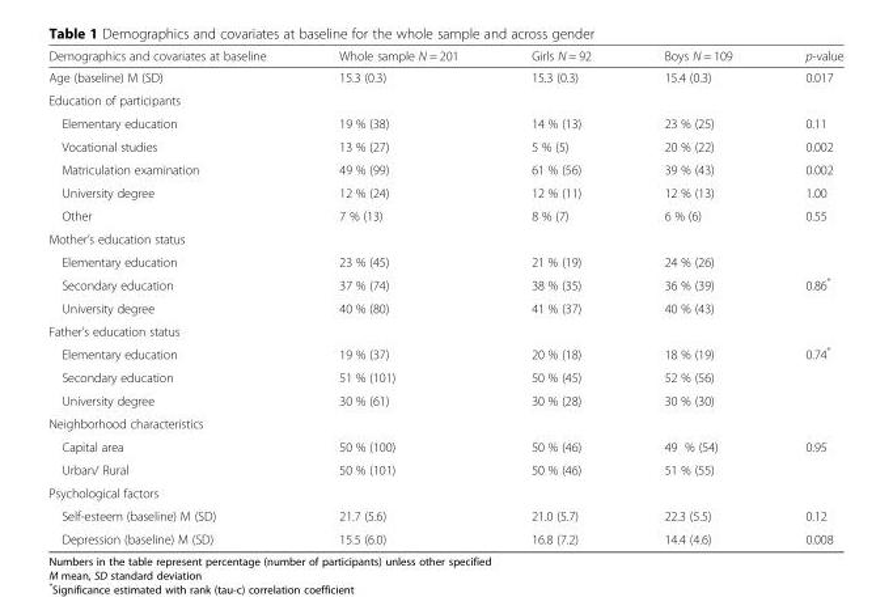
<table><thead><tr><td>Demographics and covariates at baseline</td><td>Whole sample N = 201</td><td>Girls N = 92</td><td>Boys N = 109</td><td>p-value</td></tr></thead><tbody><tr><td>Age (baseline) M (SD)</td><td>15.3 (0.3)</td><td>15.3 (0.3)</td><td>15.4 (0.3)</td><td>0.017</td></tr><tr><td colspan="5">Education of participants</td></tr><tr><td>Elementary education</td><td>19 % (38)</td><td>14 % (13)</td><td>23 % (25)</td><td>0.11</td></tr><tr><td>Vocational studies</td><td>13 % (27)</td><td>5 % (5)</td><td>20 % (22)</td><td>0.002</td></tr><tr><td>Matriculation examination</td><td>49 % (99)</td><td>61 % (56)</td><td>39 % (43)</td><td>0.002</td></tr><tr><td>University degree</td><td>12 % (24)</td><td>12 % (11)</td><td>12 % (13)</td><td>1.00</td></tr><tr><td>Other</td><td>7 % (13)</td><td>8 % (7)</td><td>6 % (6)</td><td>0.55</td></tr><tr><td colspan="5">Mother’s education status</td></tr><tr><td>Elementary education</td><td>23 % (45)</td><td>21 % (19)</td><td>24 % (26)</td><td></td></tr><tr><td>Secondary education</td><td>37 % (74)</td><td>38 % (35)</td><td>36 % (39)</td><td>0.86*</td></tr><tr><td>University degree</td><td>40 % (80)</td><td>41 % (37)</td><td>40 % (43)</td><td></td></tr><tr><td colspan="5">Father’s education status</td></tr><tr><td>Elementary education</td><td>19 % (37)</td><td>20 % (18)</td><td>18 % (19)</td><td rowspan="3">0.74*</td></tr><tr><td>Secondary education</td><td>51 % (101)</td><td>50 % (45)</td><td>52 % (56)</td></tr><tr><td>University degree</td><td>30 % (61)</td><td>30 % (28)</td><td>30 % (30)</td></tr><tr><td colspan="5">Neighborhood characteristics</td></tr><tr><td>Capital area</td><td>50 % (100)</td><td>50 % (46)</td><td>49 % (54)</td><td rowspan="2">0.95</td></tr><tr><td>Urban/ Rural</td><td>50 % (101)</td><td>50 % (46)</td><td>51 % (55)</td></tr><tr><td colspan="5">Psychological factors</td></tr><tr><td>Self-esteem (baseline) M (SD)</td><td>21.7 (5.6)</td><td>21.0 (5.7)</td><td>22.3 (5.5)</td><td>0.12</td></tr><tr><td>Depression (baseline) M (SD)</td><td>15.5 (6.0)</td><td>16.8 (7.2)</td><td>14.4 (4.6)</td><td>0.008</td></tr></tbody></table>